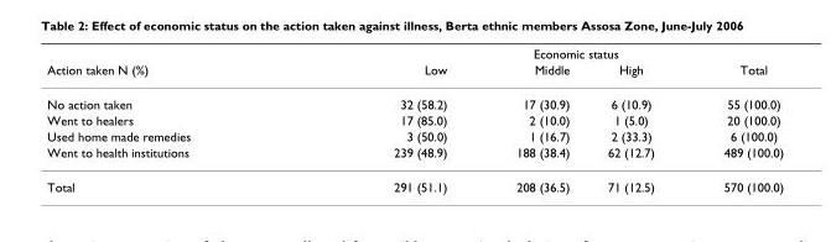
<table><thead><tr><td rowspan="2">Action taken N (%)</td><td colspan="4">Economic status</td></tr><tr><td>Low</td><td>Middle</td><td>High</td><td>Total</td></tr></thead><tbody><tr><td>No action taken</td><td>32 (58.2)</td><td>17 (30.9)</td><td>6 (10.9)</td><td>55 (100.0)</td></tr><tr><td>Went to healers</td><td>17 (85.0)</td><td>2 (10.0)</td><td>1 (5.0)</td><td>20 (100.0)</td></tr><tr><td>Used home made remedies</td><td>3 (50.0)</td><td>1 (16.7)</td><td>2 (33.3)</td><td>6 (100.0)</td></tr><tr><td>Went to health institutions</td><td>239 (48.9)</td><td>188 (38.4)</td><td>62 (12.7)</td><td>489 (100.0)</td></tr><tr><td>Total</td><td>291 (51.1)</td><td>208 (36.5)</td><td>71 (12.5)</td><td>570 (100.0)</td></tr></tbody></table>